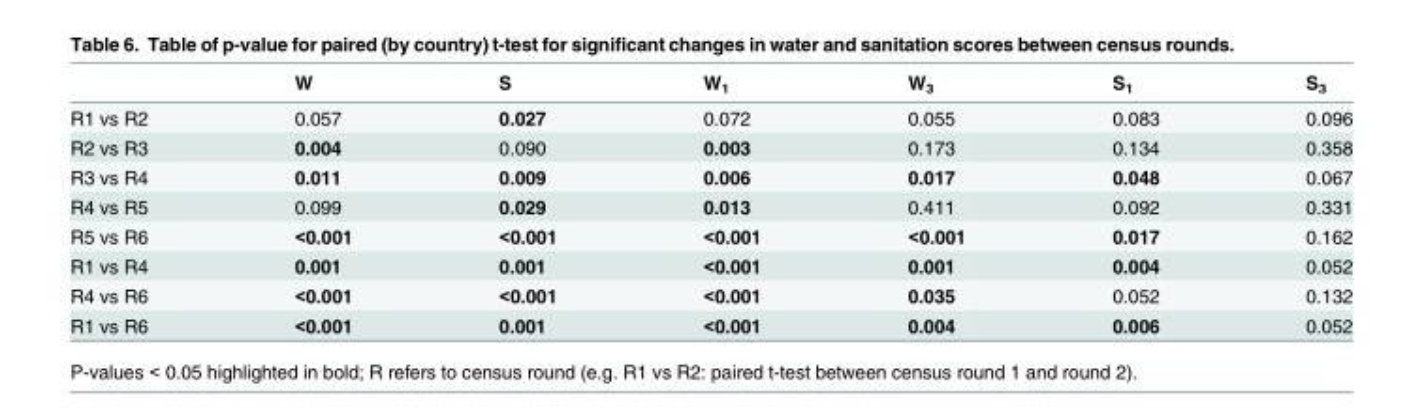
<table><thead><tr><td></td><td>W</td><td>S</td><td>W<sub>1</sub></td><td>W<sub>3</sub></td><td>S<sub>1</sub></td><td>S<sub>3</sub></td></tr></thead><tbody><tr><td>R1 vs R2</td><td>0.057</td><td>0.027</td><td>0.072</td><td>0.055</td><td>0.083</td><td>0.096</td></tr><tr><td>R2 vs R3</td><td>0.004</td><td>0.090</td><td>0.003</td><td>0.173</td><td>0.134</td><td>0.358</td></tr><tr><td>R3 vs R4</td><td>0.011</td><td>0.009</td><td>0.006</td><td>0.017</td><td>0.048</td><td>0.067</td></tr><tr><td>R4 vs R5</td><td>0.099</td><td>0.029</td><td>0.013</td><td>0.411</td><td>0.092</td><td>0.331</td></tr><tr><td>R5 vs R6</td><td>&lt;0.001</td><td>&lt;0.001</td><td>&lt;0.001</td><td>&lt;0.001</td><td>0.017</td><td>0.162</td></tr><tr><td>R1 vs R4</td><td>0.001</td><td>0.001</td><td>&lt;0.001</td><td>0.001</td><td>0.004</td><td>0.052</td></tr><tr><td>R4 vs R6</td><td>&lt;0.001</td><td>&lt;0.001</td><td>&lt;0.001</td><td>0.035</td><td>0.052</td><td>0.132</td></tr><tr><td>R1 vs R6</td><td>&lt;0.001</td><td>0.001</td><td>&lt;0.001</td><td>0.004</td><td>0.006</td><td>0.052</td></tr></tbody></table>